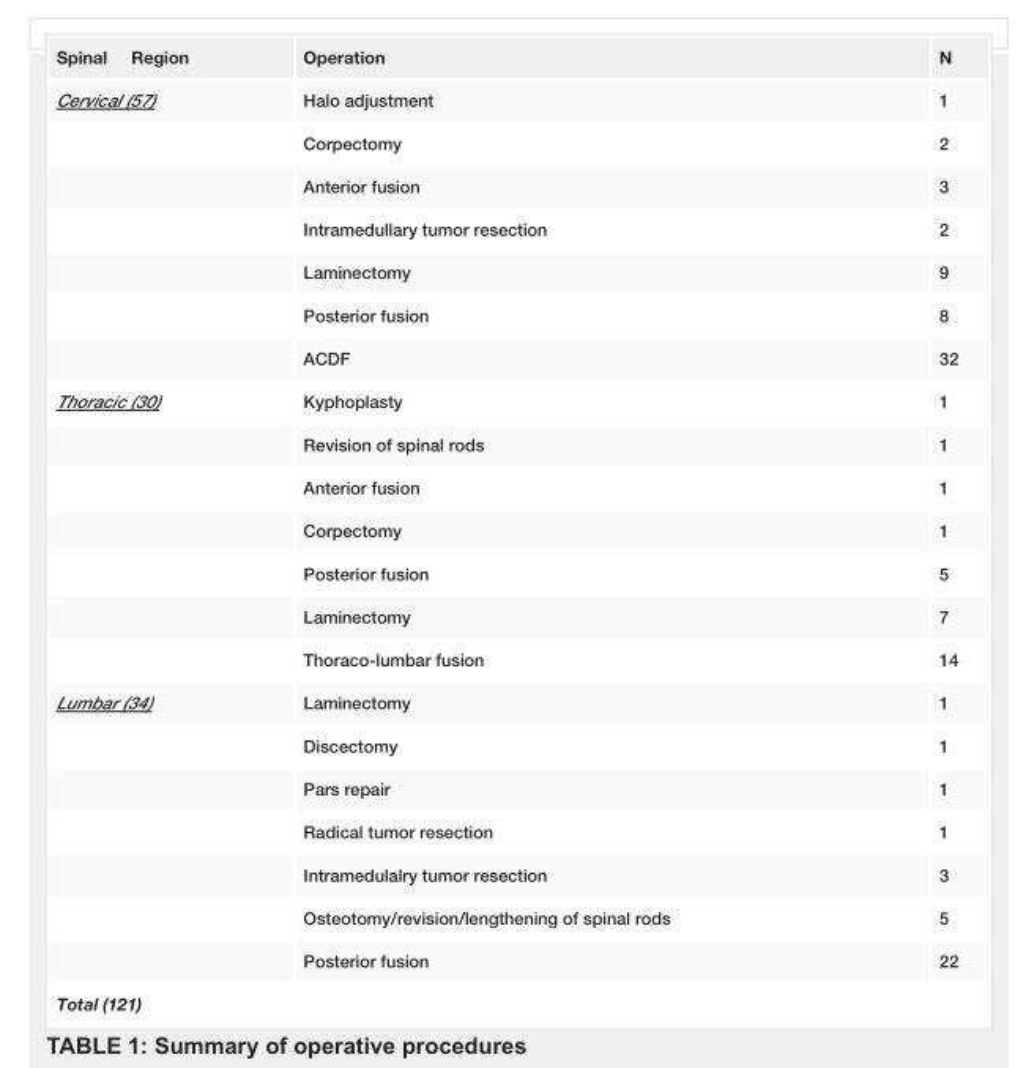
<table><tbody><tr><td>Spinal Region</td><td>Operation</td><td>N</td></tr><tr><td rowspan="7">Cervical (57)</td><td>Halo adjustment</td><td>1</td></tr><tr><td>Corpectomy</td><td>2</td></tr><tr><td>Anterior fusion</td><td>3</td></tr><tr><td>Intramedullary tumor resection</td><td>2</td></tr><tr><td>Laminectomy</td><td>9</td></tr><tr><td>Posterior fusion</td><td>8</td></tr><tr><td>ACDF</td><td>32</td></tr><tr><td rowspan="7">Thoracic (30)</td><td>Kyphoplasty</td><td>1</td></tr><tr><td>Revision of spinal rods</td><td>1</td></tr><tr><td>Anterior fusion</td><td>1</td></tr><tr><td>Corpectomy</td><td>1</td></tr><tr><td>Posterior fusion</td><td>5</td></tr><tr><td>Laminectomy</td><td>7</td></tr><tr><td>Thoraco-lumbar fusion</td><td>14</td></tr><tr><td rowspan="7">Lumbar (34)</td><td>Laminectomy</td><td>1</td></tr><tr><td>Discectomy</td><td>1</td></tr><tr><td>Pars repair</td><td>1</td></tr><tr><td>Radical tumor resection</td><td>1</td></tr><tr><td>Intramedulalry tumor resection</td><td>3</td></tr><tr><td>Osteotomy/revision/lengthening of spinal rods</td><td>5</td></tr><tr><td>Posterior fusion</td><td>22</td></tr><tr><td>Total (121)</td><td></td><td></td></tr></tbody></table>